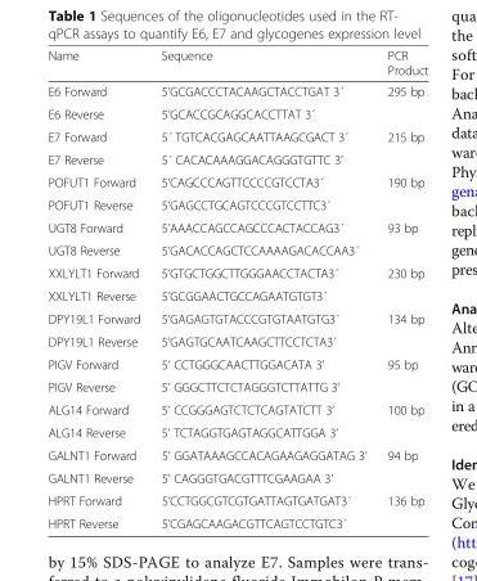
<table><thead><tr><td>Name</td><td>Sequence</td><td>PCR Product</td></tr></thead><tbody><tr><td>E6 Forward</td><td>5’GCGACCCTACAAGCTACCTGAT 3´</td><td rowspan="2">295 bp</td></tr><tr><td>E6 Reverse</td><td>5’GCACCGCAGGCACCTTAT 3´</td></tr><tr><td>E7 Forward</td><td>5´ TGTCACGAGCAATTAAGCGACT 3´</td><td rowspan="2">215 bp</td></tr><tr><td>E7 Reverse</td><td>5´ CACACAAAGGACAGGGTGTTC 3’</td></tr><tr><td>POFUT1 Forward</td><td>5’CAGCCCAGTTCCCCGTCCTA3´</td><td rowspan="2">190 bp</td></tr><tr><td>POFUT1 Reverse</td><td>5’GAGCCTGCAGTCCCGTCCTTC3´</td></tr><tr><td>UGT8 Forward</td><td>5’AAACCAGCCAGCCCACTACCAG3´</td><td rowspan="2">93 bp</td></tr><tr><td>UGT8 Reverse</td><td>5’GACACCAGCTCCAAAAGACACCAA3´</td></tr><tr><td>XXLYLT1 Forward</td><td>5’GTGCTGGCTTGGGAACCTACTA3´</td><td rowspan="2">230 bp</td></tr><tr><td>XXLYLT1 Reverse</td><td>5’GCGGAACTGCCAGAATGTGT3´</td></tr><tr><td>DPY19L1 Forward</td><td>5’GAGAGTGTACCCGTGTAATGTG3´</td><td rowspan="2">134 bp</td></tr><tr><td>DPY19L1 Reverse</td><td>5’GAGTGCAATCAAGCTTCCTCTA3´</td></tr><tr><td>PIGV Forward</td><td>5’ CCTGGGCAACTTGGACATA 3’</td><td rowspan="2">95 bp</td></tr><tr><td>PIGV Reverse</td><td>5’ GGGCTTCTCTAGGGTCTTATTG 3’</td></tr><tr><td>ALG14 Forward</td><td>5’ CCGGGAGTCTCTCAGTATCTT 3’</td><td rowspan="2">100 bp</td></tr><tr><td>ALG14 Reverse</td><td>5’ TCTAGGTGAGTAGGCATTGGA 3’</td></tr><tr><td>GALNT1 Forward</td><td>5’ GGATAAAGCCACAGAAGAGGATAG 3’</td><td>94 bp</td></tr><tr><td>GALNT1 Reverse</td><td>5’ CAGGGTGACGTTTCGAAGAA 3’</td><td></td></tr><tr><td>HPRT Forward</td><td>5’CCTGGCGTCGTGATTAGTGATGAT3´</td><td rowspan="2">136 bp</td></tr><tr><td>HPRT Reverse</td><td>5’CGAGCAAGACGTTCAGTCCTGTC3´</td></tr></tbody></table>